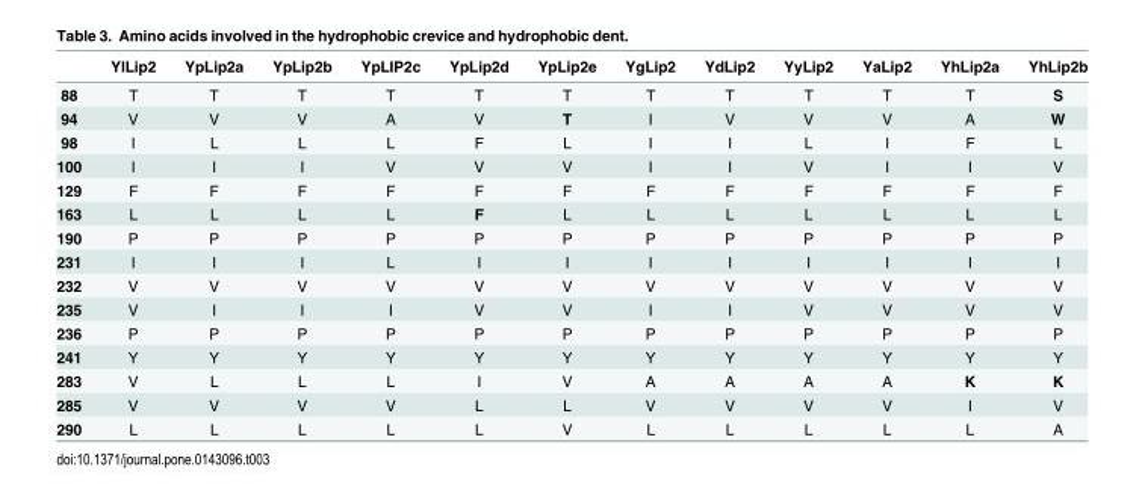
<table><thead><tr><td></td><td>YlLip2</td><td>YpLip2a</td><td>YpLip2b</td><td>YpLIP2c</td><td>YpLip2d</td><td>YpLip2e</td><td>YgLip2</td><td>YdLip2</td><td>YyLip2</td><td>YaLip2</td><td>YhLip2a</td><td>YhLip2b</td></tr></thead><tbody><tr><td>88</td><td>T</td><td>T</td><td>T</td><td>T</td><td>T</td><td>T</td><td>T</td><td>T</td><td>T</td><td>T</td><td>T</td><td>S</td></tr><tr><td>94</td><td>V</td><td>V</td><td>V</td><td>A</td><td>V</td><td>T</td><td>I</td><td>V</td><td>V</td><td>V</td><td>A</td><td>W</td></tr><tr><td>98</td><td>I</td><td>L</td><td>L</td><td>L</td><td>F</td><td>L</td><td>I</td><td>I</td><td>L</td><td>I</td><td>F</td><td>L</td></tr><tr><td>100</td><td>I</td><td>I</td><td>I</td><td>V</td><td>V</td><td>V</td><td>I</td><td>I</td><td>V</td><td>I</td><td>I</td><td>V</td></tr><tr><td>129</td><td>F</td><td>F</td><td>F</td><td>F</td><td>F</td><td>F</td><td>F</td><td>F</td><td>F</td><td>F</td><td>F</td><td>F</td></tr><tr><td>163</td><td>L</td><td>L</td><td>L</td><td>L</td><td>F</td><td>L</td><td>L</td><td>L</td><td>L</td><td>L</td><td>L</td><td>L</td></tr><tr><td>190</td><td>P</td><td>P</td><td>P</td><td>P</td><td>P</td><td>P</td><td>P</td><td>P</td><td>P</td><td>P</td><td>P</td><td>P</td></tr><tr><td>231</td><td>I</td><td>I</td><td>I</td><td>L</td><td>I</td><td>I</td><td>I</td><td>I</td><td>I</td><td>I</td><td>I</td><td>I</td></tr><tr><td>232</td><td>V</td><td>V</td><td>V</td><td>V</td><td>V</td><td>V</td><td>V</td><td>V</td><td>V</td><td>V</td><td>V</td><td>V</td></tr><tr><td>235</td><td>V</td><td>I</td><td>I</td><td>I</td><td>V</td><td>V</td><td>I</td><td>I</td><td>V</td><td>V</td><td>V</td><td>V</td></tr><tr><td>236</td><td>P</td><td>P</td><td>P</td><td>P</td><td>P</td><td>P</td><td>P</td><td>P</td><td>P</td><td>P</td><td>P</td><td>P</td></tr><tr><td>241</td><td>Y</td><td>Y</td><td>Y</td><td>Y</td><td>Y</td><td>Y</td><td>Y</td><td>Y</td><td>Y</td><td>Y</td><td>Y</td><td>Y</td></tr><tr><td>283</td><td>V</td><td>L</td><td>L</td><td>L</td><td>I</td><td>V</td><td>A</td><td>A</td><td>A</td><td>A</td><td>K</td><td>K</td></tr><tr><td>285</td><td>V</td><td>V</td><td>V</td><td>V</td><td>L</td><td>L</td><td>V</td><td>V</td><td>V</td><td>V</td><td>I</td><td>V</td></tr><tr><td>290</td><td>L</td><td>L</td><td>L</td><td>L</td><td>L</td><td>V</td><td>L</td><td>L</td><td>L</td><td>L</td><td>L</td><td>A</td></tr></tbody></table>